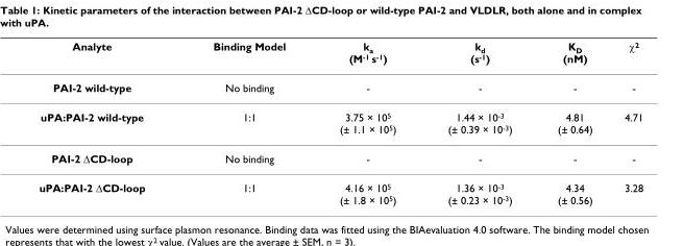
<table><thead><tr><td>Analyte</td><td>Binding Model</td><td>k<sub>a</sub> (M<sup>-1</sup> s<sup>-1</sup>)</td><td>k<sub>d</sub> (s<sup>-1</sup>)</td><td>K<sub>D</sub> (nM)</td><td>χ<sup>2</sup></td></tr></thead><tbody><tr><td>PAI-2 wild-type</td><td>No binding</td><td>-</td><td>-</td><td>-</td><td>-</td></tr><tr><td>uPA:PAI-2 wild-type</td><td>1:1</td><td>3.75 × 10<sup>5</sup> (± 1.1 × 10<sup>5</sup>)</td><td>1.44 × 10<sup>-3</sup> (± 0.39 × 10<sup>-3</sup>)</td><td>4.81 (± 0.64)</td><td>4.71</td></tr><tr><td>PAI-2 ΔCD-loop</td><td>No binding</td><td>-</td><td>-</td><td>-</td><td>-</td></tr><tr><td>uPA:PAI-2 ΔCD-loop</td><td>1:1</td><td>4.16 × 10<sup>5</sup> (± 1.8 × 10<sup>5</sup>)</td><td>1.36 × 10<sup>-3</sup> (± 0.23 × 10<sup>-3</sup>)</td><td>4.34 (± 0.56)</td><td>3.28</td></tr></tbody></table>